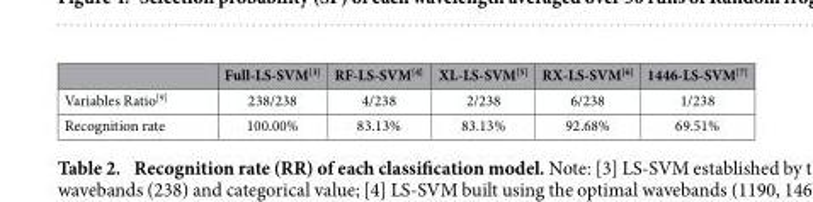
<table><thead><tr><td></td><td>Full-LS-SVM<sup>[3]</sup></td><td>RF-LS-SVM<sup>[4]</sup></td><td>XL-LS-SVM<sup>[5]</sup></td><td>RX-LS-SVM<sup>[6]</sup></td><td>1446-LS-SVM<sup>[7]</sup></td></tr></thead><tbody><tr><td>Variables Ratio<sup>[9]</sup></td><td>238/238</td><td>4/238</td><td>2/238</td><td>6/238</td><td>1/238</td></tr><tr><td>Recognition rate</td><td>100.00%</td><td>83.13%</td><td>83.13%</td><td>92.68%</td><td>69.51%</td></tr></tbody></table>